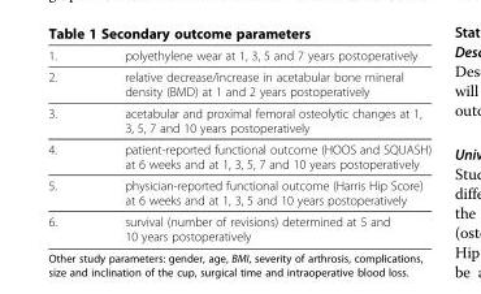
<table><tbody><tr><td>1.</td><td>polyethylene wear at 1, 3, 5 and 7 years postoperatively</td></tr><tr><td>2.</td><td>relative decrease/increase in acetabular bone mineral density (BMD) at 1 and 2 years postoperatively</td></tr><tr><td>3.</td><td>acetabular and proximal femoral osteolytic changes at 1, 3, 5, 7 and 10 years postoperatively</td></tr><tr><td>4.</td><td>patient-reported functional outcome (HOOS and SQUASH) at 6 weeks and at 1, 3, 5, 7 and 10 years postoperatively</td></tr><tr><td>5.</td><td>physician-reported functional outcome (Harris Hip Score) at 6 weeks and at 1, 3, 5 and 10 years postoperatively</td></tr><tr><td>6.</td><td>survival (number of revisions) determined at 5 and 10 years postoperatively</td></tr></tbody></table>